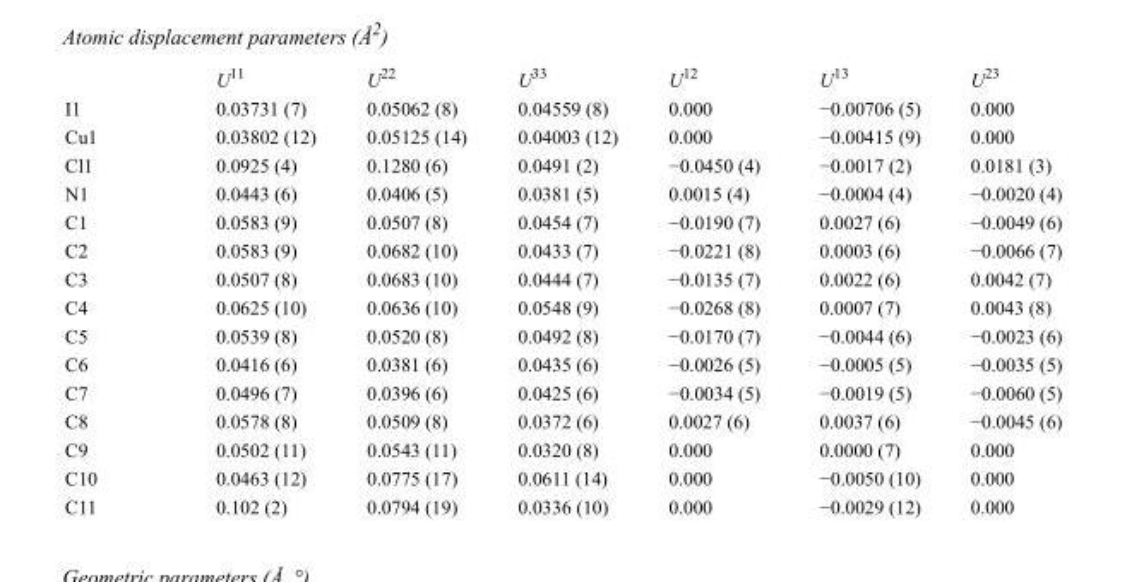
<table><thead><tr><td></td><td>U<sup>11</sup></td><td>U<sup>22</sup></td><td>U<sup>33</sup></td><td>U<sup>12</sup></td><td>U<sup>13</sup></td><td>U<sup>23</sup></td></tr></thead><tbody><tr><td>I1</td><td>0.03731 (7)</td><td>0.05062 (8)</td><td>0.04559 (8)</td><td>0.000</td><td>−0.00706 (5)</td><td>0.000</td></tr><tr><td>Cu1</td><td>0.03802 (12)</td><td>0.05125 (14)</td><td>0.04003 (12)</td><td>0.000</td><td>−0.00415 (9)</td><td>0.000</td></tr><tr><td>Cl1</td><td>0.0925 (4)</td><td>0.1280 (6)</td><td>0.0491 (2)</td><td>−0.0450 (4)</td><td>−0.0017 (2)</td><td>0.0181 (3)</td></tr><tr><td>N1</td><td>0.0443 (6)</td><td>0.0406 (5)</td><td>0.0381 (5)</td><td>0.0015 (4)</td><td>−0.0004 (4)</td><td>−0.0020 (4)</td></tr><tr><td>C1</td><td>0.0583 (9)</td><td>0.0507 (8)</td><td>0.0454 (7)</td><td>−0.0190 (7)</td><td>0.0027 (6)</td><td>−0.0049 (6)</td></tr><tr><td>C2</td><td>0.0583 (9)</td><td>0.0682 (10)</td><td>0.0433 (7)</td><td>−0.0221 (8)</td><td>0.0003 (6)</td><td>−0.0066 (7)</td></tr><tr><td>C3</td><td>0.0507 (8)</td><td>0.0683 (10)</td><td>0.0444 (7)</td><td>−0.0135 (7)</td><td>0.0022 (6)</td><td>0.0042 (7)</td></tr><tr><td>C4</td><td>0.0625 (10)</td><td>0.0636 (10)</td><td>0.0548 (9)</td><td>−0.0268 (8)</td><td>0.0007 (7)</td><td>0.0043 (8)</td></tr><tr><td>C5</td><td>0.0539 (8)</td><td>0.0520 (8)</td><td>0.0492 (8)</td><td>−0.0170 (7)</td><td>−0.0044 (6)</td><td>−0.0023 (6)</td></tr><tr><td>C6</td><td>0.0416 (6)</td><td>0.0381 (6)</td><td>0.0435 (6)</td><td>−0.0026 (5)</td><td>−0.0005 (5)</td><td>−0.0035 (5)</td></tr><tr><td>C7</td><td>0.0496 (7)</td><td>0.0396 (6)</td><td>0.0425 (6)</td><td>−0.0034 (5)</td><td>−0.0019 (5)</td><td>−0.0060 (5)</td></tr><tr><td>C8</td><td>0.0578 (8)</td><td>0.0509 (8)</td><td>0.0372 (6)</td><td>0.0027 (6)</td><td>0.0037 (6)</td><td>−0.0045 (6)</td></tr><tr><td>C9</td><td>0.0502 (11)</td><td>0.0543 (11)</td><td>0.0320 (8)</td><td>0.000</td><td>0.0000 (7)</td><td>0.000</td></tr><tr><td>C10</td><td>0.0463 (12)</td><td>0.0775 (17)</td><td>0.0611 (14)</td><td>0.000</td><td>−0.0050 (10)</td><td>0.000</td></tr><tr><td>C11</td><td>0.102 (2)</td><td>0.0794 (19)</td><td>0.0336 (10)</td><td>0.000</td><td>−0.0029 (12)</td><td>0.000</td></tr></tbody></table>